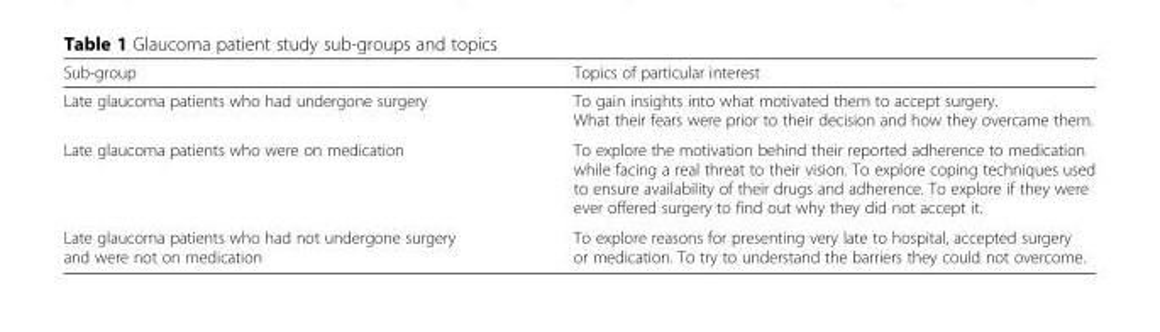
<table><thead><tr><td>Sub-group</td><td>Topics of particular interest</td></tr></thead><tbody><tr><td>Late glaucoma patients who had undergone surgery</td><td>To gain insights into what motivated them to accept surgery. What their fears were prior to their decision and how they overcame them.</td></tr><tr><td>Late glaucoma patients who were on medication</td><td>To explore the motivation behind their reported adherence to medication while facing a real threat to their vision. To explore coping techniques used to ensure availability of their drugs and adherence. To explore if they were ever offered surgery to find out why they did not accept it.</td></tr><tr><td>Late glaucoma patients who had not undergone surgery and were not on medication</td><td>To explore reasons for presenting very late to hospital, accepted surgery or medication. To try to understand the barriers they could not overcome.</td></tr></tbody></table>